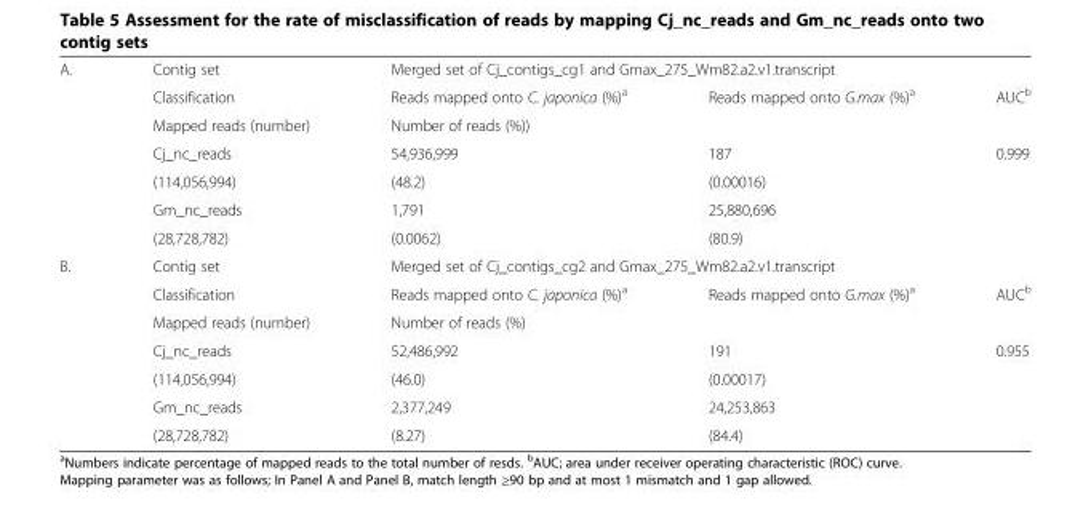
<table><tbody><tr><td rowspan="7">A.</td><td>Contig set</td><td colspan="3">Merged set of Cj_contigs_cg1 and Gmax_275_Wm82.a2.v1.transcript</td></tr><tr><td>Classification</td><td>Reads mapped onto C. japonica (%)<sup>a</sup></td><td>Reads mapped onto G.max (%)<sup>a</sup></td><td>AUC<sup>b</sup></td></tr><tr><td>Mapped reads (number)</td><td colspan="2">Number of reads (%))</td><td></td></tr><tr><td>Cj_nc_reads</td><td>54,936,999</td><td>187</td><td rowspan="4">0.999</td></tr><tr><td>(114,056,994)</td><td>(48.2)</td><td>(0.00016)</td></tr><tr><td>Gm_nc_reads</td><td>1,791</td><td>25,880,696</td></tr><tr><td>(28,728,782)</td><td>(0.0062)</td><td>(80.9)</td></tr><tr><td rowspan="7">B.</td><td>Contig set</td><td colspan="3">Merged set of Cj_contigs_cg2 and Gmax_275_Wm82.a2.v1.transcript</td></tr><tr><td>Classification</td><td>Reads mapped onto C. japonica (%)<sup>a</sup></td><td>Reads mapped onto G.max (%)<sup>a</sup></td><td>AUC<sup>b</sup></td></tr><tr><td>Mapped reads (number)</td><td colspan="2">Number of reads (%)</td><td></td></tr><tr><td>Cj_nc_reads</td><td>52,486,992</td><td>191</td><td rowspan="4">0.955</td></tr><tr><td>(114,056,994)</td><td>(46.0)</td><td>(0.00017)</td></tr><tr><td>Gm_nc_reads</td><td>2,377,249</td><td>24,253,863</td></tr><tr><td>(28,728,782)</td><td>(8.27)</td><td>(84.4)</td></tr></tbody></table>